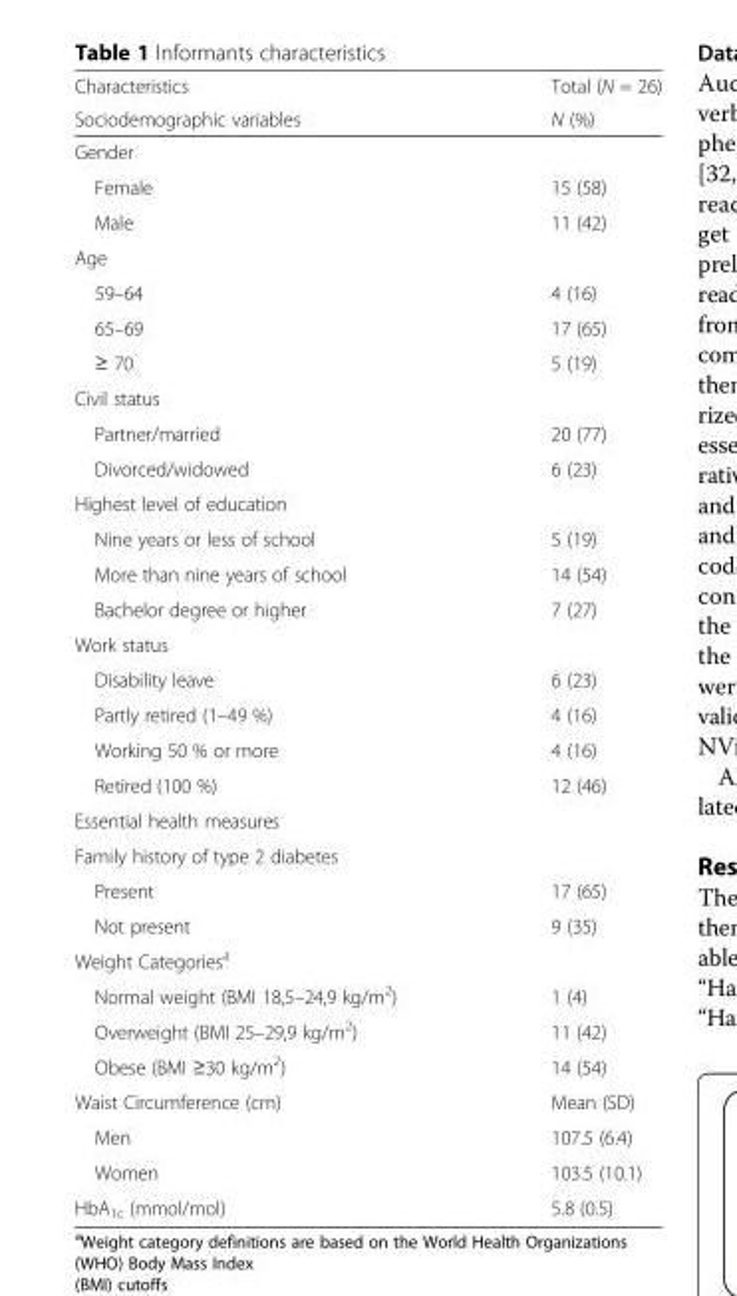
<table><thead><tr><td rowspan="2">Characteristics Sociodemographic variables</td><td rowspan="2">Total (N = 26) N (%)</td></tr><tr></tr></thead><tbody><tr><td colspan="2">Gender</td></tr><tr><td>Female</td><td>15 (58)</td></tr><tr><td>Male</td><td>11 (42)</td></tr><tr><td colspan="2">Age</td></tr><tr><td>59–64</td><td>4 (16)</td></tr><tr><td>65–69</td><td>17 (65)</td></tr><tr><td>≥ 70</td><td>5 (19)</td></tr><tr><td colspan="2">Civil status</td></tr><tr><td>Partner/married</td><td>20 (77)</td></tr><tr><td>Divorced/widowed</td><td>6 (23)</td></tr><tr><td colspan="2">Highest level of education</td></tr><tr><td>Nine years or less of school</td><td>5 (19)</td></tr><tr><td>More than nine years of school</td><td>14 (54)</td></tr><tr><td>Bachelor degree or higher</td><td>7 (27)</td></tr><tr><td colspan="2">Work status</td></tr><tr><td>Disability leave</td><td>6 (23)</td></tr><tr><td>Partly retired (1–49 %)</td><td>4 (16)</td></tr><tr><td>Working 50 % or more</td><td>4 (16)</td></tr><tr><td>Retired (100 %)</td><td>12 (46)</td></tr><tr><td colspan="2">Essential health measures</td></tr><tr><td colspan="2">Family history of type 2 diabetes</td></tr><tr><td>Present</td><td>17 (65)</td></tr><tr><td>Not present</td><td>9 (35)</td></tr><tr><td colspan="2">Weight Categories<sup>a</sup></td></tr><tr><td>Normal weight (BMI 18,5–24,9 kg/m<sup>2</sup>)</td><td>1 (4)</td></tr><tr><td>Overweight (BMI 25–29,9 kg/m<sup>2</sup>)</td><td>11 (42)</td></tr><tr><td>Obese (BMI ≥30 kg/m<sup>2</sup>)</td><td>14 (54)</td></tr><tr><td>Waist Circumference (cm)</td><td>Mean (SD)</td></tr><tr><td>Men</td><td>107.5 (6.4)</td></tr><tr><td>Women</td><td>103.5 (10.1)</td></tr><tr><td>HbA<sub>1c</sub> (mmol/mol)</td><td>5.8 (0.5)</td></tr></tbody></table>